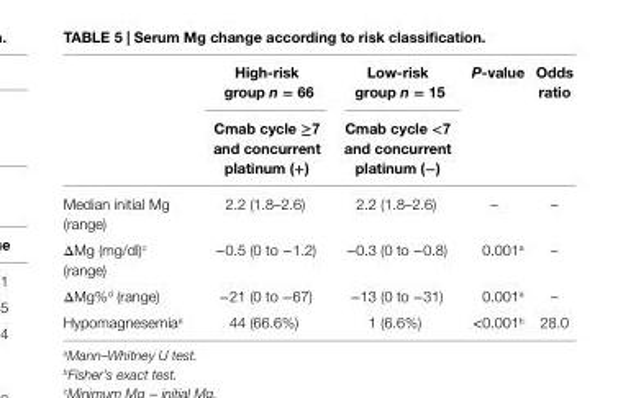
<table><thead><tr><td rowspan="2"></td><td rowspan="2">high-risk group n = 66 cmab cycle ≥7 and concurrent platinum (+)</td><td rowspan="2">low-risk group n = 15 cmab cycle &lt;7 and concurrent platinum (−)</td><td rowspan="2">P-value</td><td rowspan="2">Odds ratio</td></tr><tr></tr></thead><tbody><tr><td>Median initial Mg (range)</td><td>2.2 (1.8–2.6)</td><td>2.2 (1.8–2.6)</td><td>–</td><td>–</td></tr><tr><td>ΔMg (mg/dl)<sup>c</sup> (range)</td><td>−0.5 (0 to −1.2)</td><td>−0.3 (0 to −0.8)</td><td>0.001<sup>a</sup></td><td>–</td></tr><tr><td>ΔMg%<sup>d</sup> (range)</td><td>−21 (0 to −67)</td><td>−13 (0 to −31)</td><td>0.001<sup>a</sup></td><td>–</td></tr><tr><td>Hypomagnesemia<sup>e</sup></td><td>44 (66.6%)</td><td>1 (6.6%)</td><td>&lt;0.001<sup>b</sup></td><td>28.0</td></tr></tbody></table>